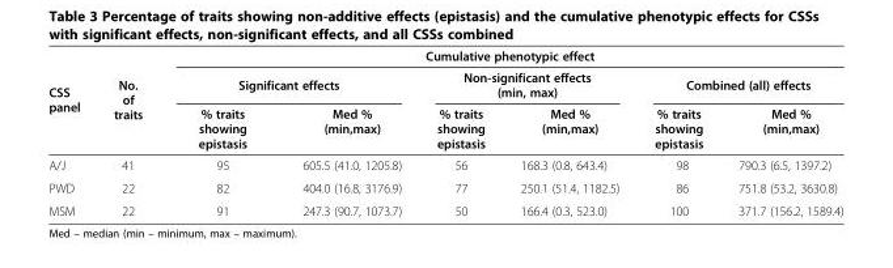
<table><thead><tr><td rowspan="3">CSS panel</td><td rowspan="3">No. of traits</td><td colspan="6">Cumulative phenotypic effect</td></tr><tr><td colspan="2">Significant effects</td><td colspan="2">Non-significant effects (min, max)</td><td colspan="2">Combined (all) effects</td></tr><tr><td>% traits showing epistasis</td><td>Med % (min,max)</td><td>% traits showing epistasis</td><td>Med % (min,max)</td><td>% traits showing epistasis</td><td>Med % (min,max)</td></tr></thead><tbody><tr><td>A/J</td><td>41</td><td>95</td><td>605.5 (41.0, 1205.8)</td><td>56</td><td>168.3 (0.8, 643.4)</td><td>98</td><td>790.3 (6.5, 1397.2)</td></tr><tr><td>PWD</td><td>22</td><td>82</td><td>404.0 (16.8, 3176.9)</td><td>77</td><td>250.1 (51.4, 1182.5)</td><td>86</td><td>751.8 (53.2, 3630.8)</td></tr><tr><td>MSM</td><td>22</td><td>91</td><td>247.3 (90.7, 1073.7)</td><td>50</td><td>166.4 (0.3, 523.0)</td><td>100</td><td>371.7 (156.2, 1589.4)</td></tr></tbody></table>